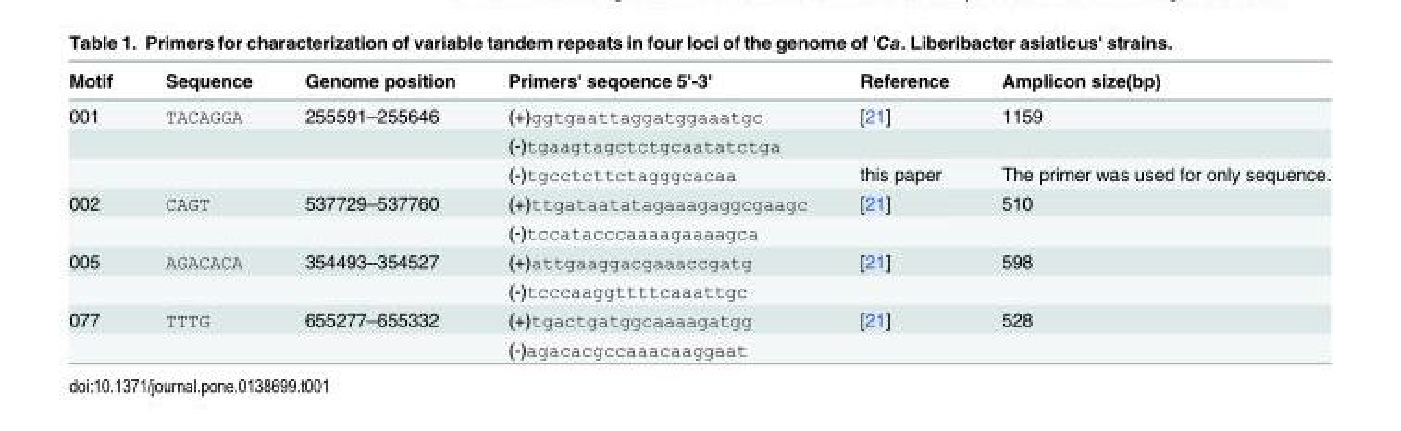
<table><thead><tr><td>Motif</td><td>Sequence</td><td>Genome position</td><td>Primers&#x27; seqoence 5&#x27;-3&#x27;</td><td>Reference</td><td>Amplicon size(bp)</td></tr></thead><tbody><tr><td rowspan="3">001</td><td>TACAGGA</td><td>255591–255646</td><td>(+)ggtgaattaggatggaaatgc</td><td>[21]</td><td>1159</td></tr><tr><td></td><td></td><td>(-)tgaagtagctctgcaatatctga</td><td></td><td></td></tr><tr><td></td><td></td><td>(-)tgcctcttctagggcacaa</td><td>this paper</td><td>The primer was used for only sequence.</td></tr><tr><td rowspan="2">002</td><td>CAGT</td><td>537729–537760</td><td>(+)ttgataatatagaaagaggcgaagc</td><td>[21]</td><td>510</td></tr><tr><td></td><td></td><td>(-)tccatacccaaaagaaaagca</td><td></td><td></td></tr><tr><td rowspan="2">005</td><td>AGACACA</td><td>354493–354527</td><td>(+)attgaaggacgaaaccgatg</td><td>[21]</td><td>598</td></tr><tr><td></td><td></td><td>(-)tcccaaggttttcaaattgc</td><td></td><td></td></tr><tr><td rowspan="2">077</td><td>TTTG</td><td>655277–655332</td><td>(+)tgactgatggcaaaagatgg</td><td>[21]</td><td>528</td></tr><tr><td></td><td></td><td>(-)agacacgccaaacaaggaat</td><td></td><td></td></tr></tbody></table>